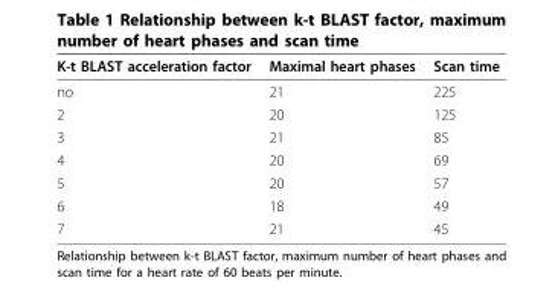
<table><thead><tr><td>K-t BLAST acceleration factor</td><td>Maximal heart phases</td><td>Scan time</td></tr></thead><tbody><tr><td>no</td><td>21</td><td>225</td></tr><tr><td>2</td><td>20</td><td>125</td></tr><tr><td>3</td><td>21</td><td>85</td></tr><tr><td>4</td><td>20</td><td>69</td></tr><tr><td>5</td><td>20</td><td>57</td></tr><tr><td>6</td><td>18</td><td>49</td></tr><tr><td>7</td><td>21</td><td>45</td></tr></tbody></table>